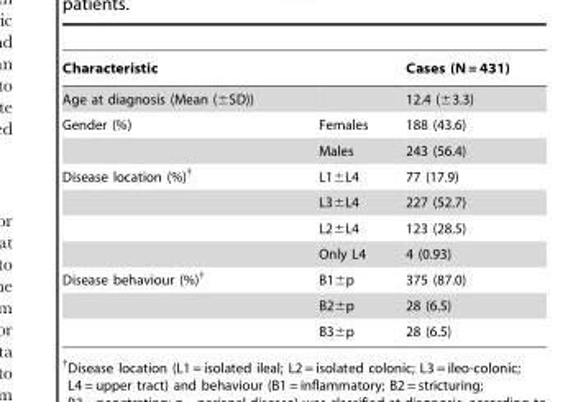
<table><thead><tr><td>Characteristic</td><td></td><td>Cases (N = 431)</td></tr></thead><tbody><tr><td>Age at diagnosis (Mean (±SD))</td><td></td><td>12.4 (±3.3)</td></tr><tr><td rowspan="2">Gender (%)</td><td>Females</td><td>188 (43.6)</td></tr><tr><td>Males</td><td>243 (56.4)</td></tr><tr><td rowspan="4">Disease location (%)†</td><td>L1±L4</td><td>77 (17.9)</td></tr><tr><td>L3±L4</td><td>227 (52.7)</td></tr><tr><td>L2±L4</td><td>123 (28.5)</td></tr><tr><td>Only L4</td><td>4 (0.93)</td></tr><tr><td rowspan="3">Disease behaviour (%)†</td><td>B1±p</td><td>375 (87.0)</td></tr><tr><td>B2±p</td><td>28 (6.5)</td></tr><tr><td>B3±p</td><td>28 (6.5)</td></tr></tbody></table>